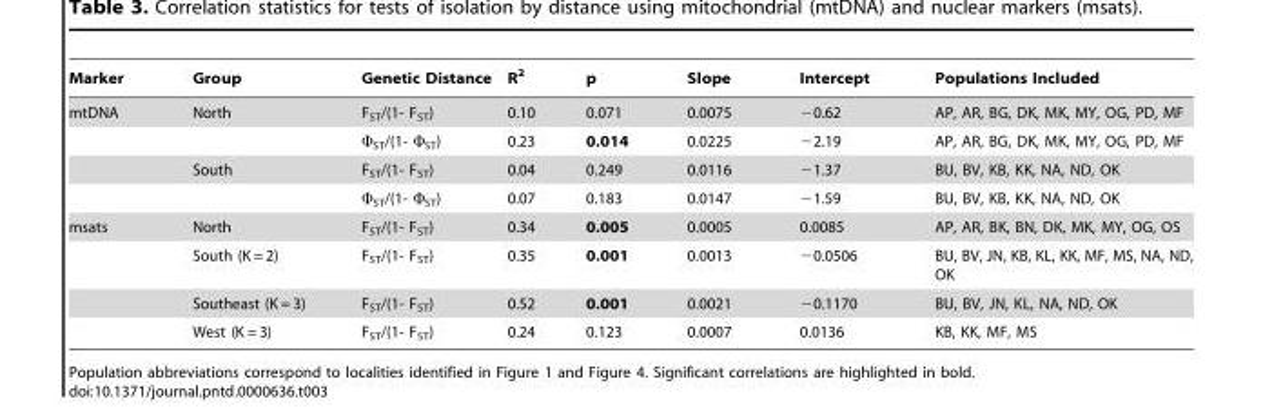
<table><thead><tr><td>Marker</td><td>Group</td><td>Genetic Distance</td><td>R<sup>2</sup></td><td>p</td><td>Slope</td><td>Intercept</td><td>Populations Included</td></tr></thead><tbody><tr><td rowspan="4">mtDNA</td><td>North</td><td>F<sub>ST</sub>/(1- F<sub>ST</sub>)</td><td>0.10</td><td>0.071</td><td>0.0075</td><td>−0.62</td><td>AP, AR, BG, DK, MK, MY, OG, PD, MF</td></tr><tr><td></td><td>Φ<sub>ST</sub>/(1- Φ<sub>ST</sub>)</td><td>0.23</td><td>0.014</td><td>0.0225</td><td>−2.19</td><td>AP, AR, BG, DK, MK, MY, OG, PD, MF</td></tr><tr><td>South</td><td>F<sub>ST</sub>/(1- F<sub>ST</sub>)</td><td>0.04</td><td>0.249</td><td>0.0116</td><td>−1.37</td><td>BU, BV, KB, KK, NA, ND, OK</td></tr><tr><td></td><td>Φ<sub>ST</sub>/(1- Φ<sub>ST</sub>)</td><td>0.07</td><td>0.183</td><td>0.0147</td><td>−1.59</td><td>BU, BV, KB, KK, NA, ND, OK</td></tr><tr><td rowspan="4">msats</td><td>North</td><td>F<sub>ST</sub>/(1- F<sub>ST</sub>)</td><td>0.34</td><td>0.005</td><td>0.0005</td><td>0.0085</td><td>AP, AR, BK, BN, DK, MK, MY, OG, OS</td></tr><tr><td>South (K = 2)</td><td>F<sub>ST</sub>/(1- F<sub>ST</sub>)</td><td>0.35</td><td>0.001</td><td>0.0013</td><td>−0.0506</td><td>BU, BV, JN, KB, KL, KK, MF, MS, NA, ND, OK</td></tr><tr><td>Southeast (K = 3)</td><td>F<sub>ST</sub>/(1- F<sub>ST</sub>)</td><td>0.52</td><td>0.001</td><td>0.0021</td><td>−0.1170</td><td>BU, BV, JN, KL, NA, ND, OK</td></tr><tr><td>West (K = 3)</td><td>F<sub>ST</sub>/(1- F<sub>ST</sub>)</td><td>0.24</td><td>0.123</td><td>0.0007</td><td>0.0136</td><td>KB, KK, MF, MS</td></tr></tbody></table>